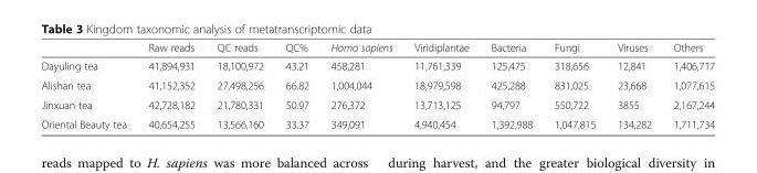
<table><thead><tr><td></td><td>Raw reads</td><td>QC reads</td><td>QC%</td><td>Homo sapiens</td><td>Viridiplantae</td><td>Bacteria</td><td>Fungi</td><td>Viruses</td><td>Others</td></tr></thead><tbody><tr><td>Dayuling tea</td><td>41,894,931</td><td>18,100,972</td><td>43.21</td><td>458,281</td><td>11,761,339</td><td>125,475</td><td>318,656</td><td>12,841</td><td>1,406,717</td></tr><tr><td>Alishan tea</td><td>41,152,352</td><td>27,498,256</td><td>66.82</td><td>1,004,044</td><td>18,979,598</td><td>425,288</td><td>831,025</td><td>23,668</td><td>1,077,615</td></tr><tr><td>Jinxuan tea</td><td>42,728,182</td><td>21,780,331</td><td>50.97</td><td>276,372</td><td>13,713,125</td><td>94,797</td><td>550,722</td><td>3855</td><td>2,167,244</td></tr><tr><td>Oriental Beauty tea</td><td>40,654,255</td><td>13,566,160</td><td>33.37</td><td>349,091</td><td>4,940,454</td><td>1,392,988</td><td>1,047,815</td><td>134,282</td><td>1,711,734</td></tr></tbody></table>